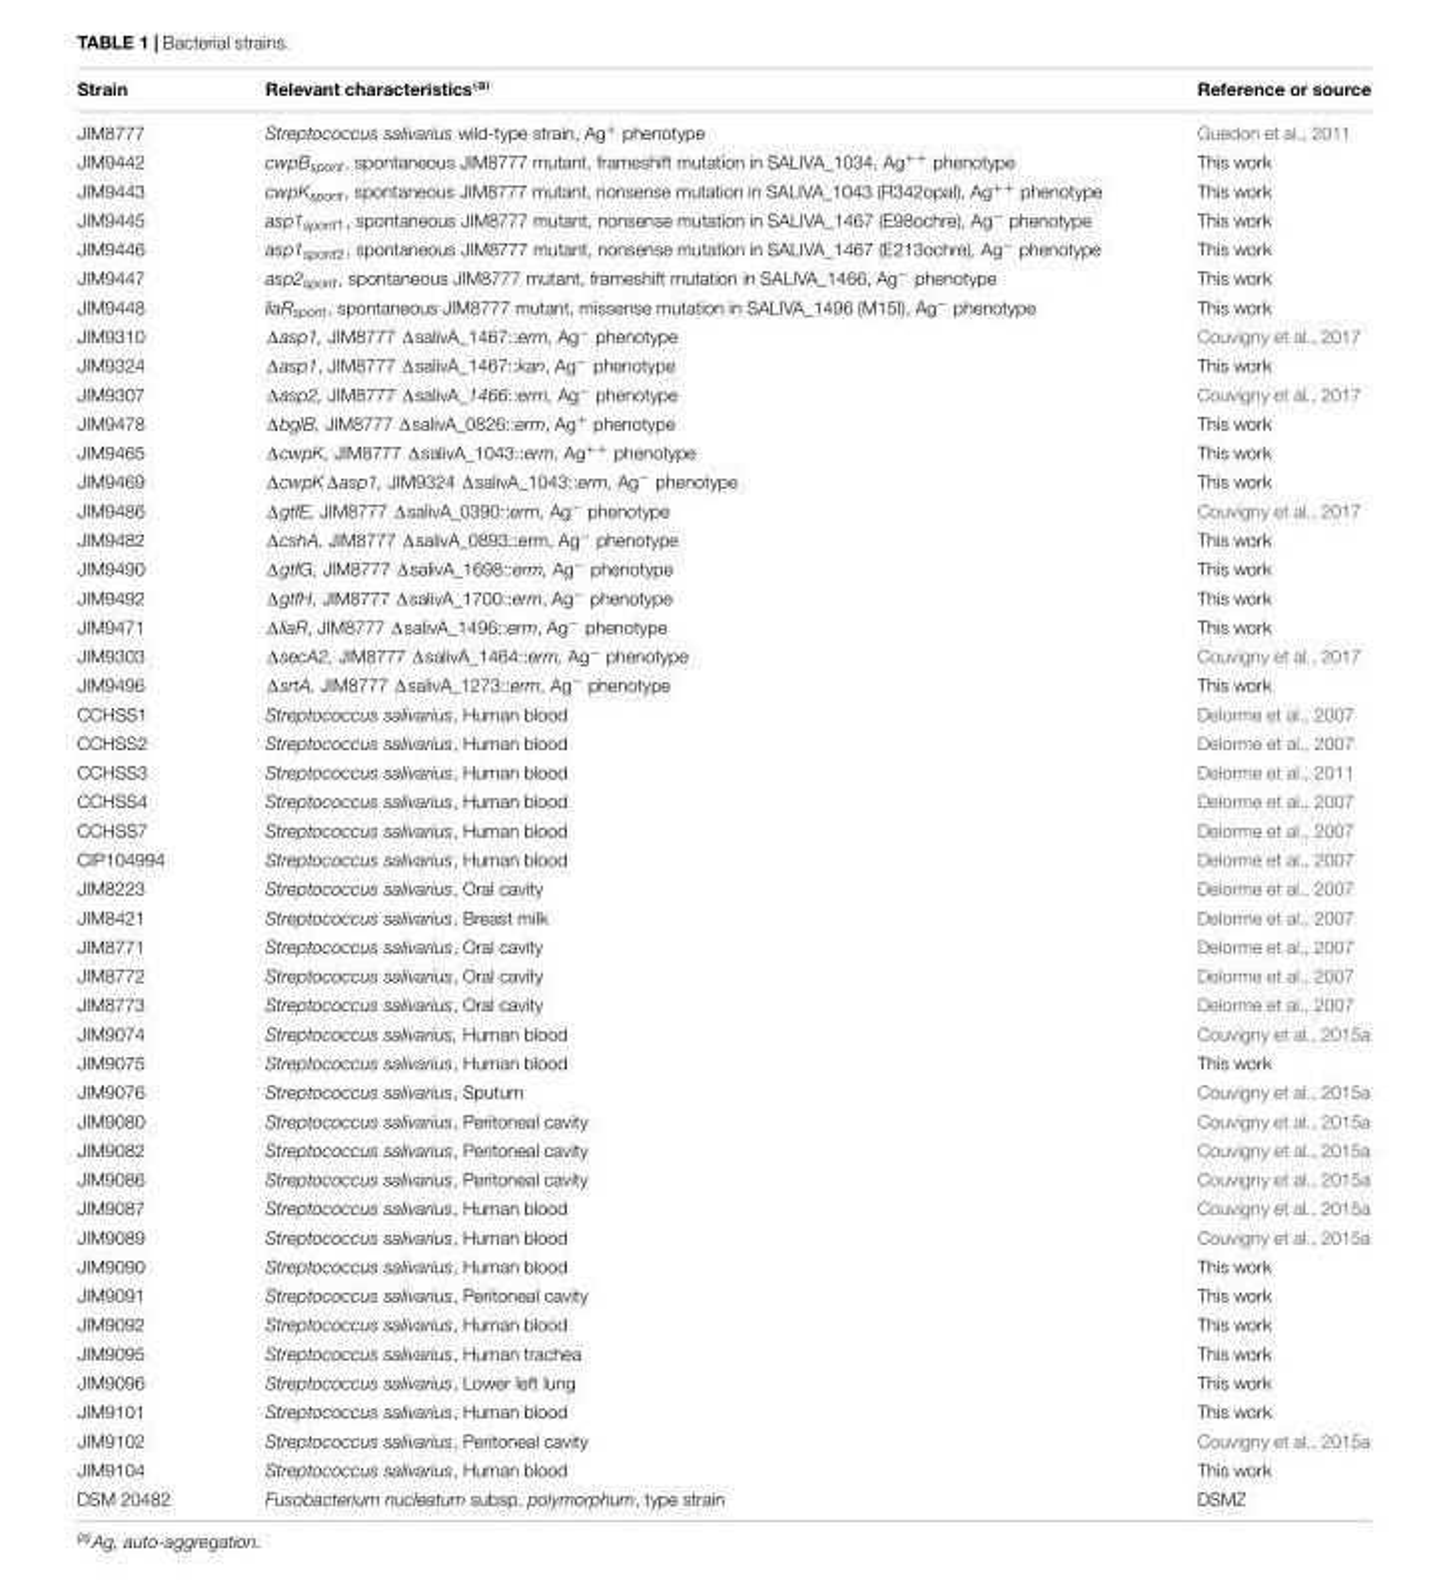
<table><thead><tr><td>Strain</td><td>Relevant characteristics<sup>(a)</sup></td><td>Reference or source</td></tr></thead><tbody><tr><td>JIM8777</td><td>Streptococcus salivarius wild-type strain, Ag<sup>+</sup> phenotype</td><td>Guedon et al., 2011</td></tr><tr><td>JIM9442</td><td>cwpB<sub>spont</sub>, spontaneous JIM8777 mutant, frameshift mutation in SALIVA_1034, Ag<sup>++</sup> phenotype</td><td>This work</td></tr><tr><td>JIM9443</td><td>cwpK<sub>spont</sub>, spontaneous JIM8777 mutant, nonsense mutation in SALIVA_1043 (R342opal), Ag<sup>++</sup> phenotype</td><td>This work</td></tr><tr><td>JIM9445</td><td>asp1<sub>spont1</sub>, spontaneous JIM8777 mutant, nonsense mutation in SALIVA_1467 (E98ochre), Ag<sup>−</sup> phenotype</td><td>This work</td></tr><tr><td>JIM9446</td><td>asp1<sub>spont2</sub>, spontaneous JIM8777 mutant, nonsense mutation in SALIVA_1467 (E213ochre), Ag<sup>−</sup> phenotype</td><td>This work</td></tr><tr><td>JIM9447</td><td>asp2<sub>spont</sub>, spontaneous JIM8777 mutant, frameshift mutation in SALIVA_1466, Ag<sup>−</sup> phenotype</td><td>This work</td></tr><tr><td>JIM9448</td><td>liaR<sub>spont</sub>, spontaneous JIM8777 mutant, missense mutation in SALIVA_1496 (M15I), Ag<sup>−</sup> phenotype</td><td>This work</td></tr><tr><td>JIM9310</td><td>Δasp1, JIM8777 ΔsalivA_1467::erm, Ag<sup>−</sup> phenotype</td><td>Couvigny et al., 2017</td></tr><tr><td>JIM9324</td><td>Δasp1, JIM8777 ΔsalivA_1467::kan, Ag<sup>−</sup> phenotype</td><td>This work</td></tr><tr><td>JIM9307</td><td>Δasp2, JIM8777 ΔsalivA_1466::erm, Ag<sup>−</sup> phenotype</td><td>Couvigny et al., 2017</td></tr><tr><td>JIM9478</td><td>ΔbglB, JIM8777 ΔsalivA_0826::erm, Ag<sup>+</sup> phenotype</td><td>This work</td></tr><tr><td>JIM9465</td><td>ΔcwpK, JIM8777 ΔsalivA_1043::erm, Ag<sup>++</sup> phenotype</td><td>This work</td></tr><tr><td>JIM9469</td><td>ΔcwpKΔasp1, JIM9324 ΔsalivA_1043::erm, Ag<sup>−</sup> phenotype</td><td>This work</td></tr><tr><td>JIM9486</td><td>ΔgtfE, JIM8777 ΔsalivA_0390::erm, Ag<sup>−</sup> phenotype</td><td>Couvigny et al., 2017</td></tr><tr><td>JIM9482</td><td>ΔcshA, JIM8777 ΔsalivA_0893::erm, Ag<sup>−</sup> phenotype</td><td>This work</td></tr><tr><td>JIM9490</td><td>ΔgtfG, JIM8777 ΔsalivA_1698::erm, Ag<sup>−</sup> phenotype</td><td>This work</td></tr><tr><td>JIM9492</td><td>ΔgtfH, JIM8777 ΔsalivA_1700::erm, Ag<sup>−</sup> phenotype</td><td>This work</td></tr><tr><td>JIM9471</td><td>ΔliaR, JIM8777 ΔsalivA_1496::erm, Ag<sup>−</sup> phenotype</td><td>This work</td></tr><tr><td>JIM9303</td><td>ΔsecA2, JIM8777 ΔsalivA_1464::erm, Ag<sup>−</sup> phenotype</td><td>Couvigny et al., 2017</td></tr><tr><td>JIM9496</td><td>ΔsrtA, JIM8777 ΔsalivA_1273::erm, Ag<sup>−</sup> phenotype</td><td>This work</td></tr><tr><td>CCHSS1</td><td>Streptococcus salivarius, Human blood</td><td>Delorme et al., 2007</td></tr><tr><td>CCHSS2</td><td>Streptococcus salivarius, Human blood</td><td>Delorme et al., 2007</td></tr><tr><td>CCHSS3</td><td>Streptococcus salivarius, Human blood</td><td>Delorme et al., 2011</td></tr><tr><td>CCHSS4</td><td>Streptococcus salivarius, Human blood</td><td>Delorme et al., 2007</td></tr><tr><td>CCHSS7</td><td>Streptococcus salivarius, Human blood</td><td>Delorme et al., 2007</td></tr><tr><td>CIP104994</td><td>Streptococcus salivarius, Human blood</td><td>Delorme et al., 2007</td></tr><tr><td>JIM8223</td><td>Streptococcus salivarius, Oral cavity</td><td>Delorme et al., 2007</td></tr><tr><td>JIM8421</td><td>Streptococcus salivarius, Breast milk</td><td>Delorme et al., 2007</td></tr><tr><td>JIM8771</td><td>Streptococcus salivarius, Oral cavity</td><td>Delorme et al., 2007</td></tr><tr><td>JIM8772</td><td>Streptococcus salivarius, Oral cavity</td><td>Delorme et al., 2007</td></tr><tr><td>JIM8773</td><td>Streptococcus salivarius, Oral cavity</td><td>Delorme et al., 2007</td></tr><tr><td>JIM9074</td><td>Streptococcus salivarius, Human blood</td><td>Couvigny et al., 2015a</td></tr><tr><td>JIM9075</td><td>Streptococcus salivarius, Human blood</td><td>This work</td></tr><tr><td>JIM9076</td><td>Streptococcus salivarius, Sputum</td><td>Couvigny et al., 2015a</td></tr><tr><td>JIM9080</td><td>Streptococcus salivarius, Peritoneal cavity</td><td>Couvigny et al., 2015a</td></tr><tr><td>JIM9082</td><td>Streptococcus salivarius, Peritoneal cavity</td><td>Couvigny et al., 2015a</td></tr><tr><td>JIM9086</td><td>Streptococcus salivarius, Peritoneal cavity</td><td>Couvigny et al., 2015a</td></tr><tr><td>JIM9087</td><td>Streptococcus salivarius, Human blood</td><td>Couvigny et al., 2015a</td></tr><tr><td>JIM9089</td><td>Streptococcus salivarius, Human blood</td><td>Couvigny et al., 2015a</td></tr><tr><td>JIM9090</td><td>Streptococcus salivarius, Human blood</td><td>This work</td></tr><tr><td>JIM9091</td><td>Streptococcus salivarius, Peritoneal cavity</td><td>This work</td></tr><tr><td>JIM9092</td><td>Streptococcus salivarius, Human blood</td><td>This work</td></tr><tr><td>JIM9095</td><td>Streptococcus salivarius, Human trachea</td><td>This work</td></tr><tr><td>JIM9096</td><td>Streptococcus salivarius, Lower left lung</td><td>This work</td></tr><tr><td>JIM9101</td><td>Streptococcus salivarius, Human blood</td><td>This work</td></tr><tr><td>JIM9102</td><td>Streptococcus salivarius, Peritoneal cavity</td><td>Couvigny et al., 2015a</td></tr><tr><td>JIM9104</td><td>Streptococcus salivarius, Human blood</td><td>This work</td></tr><tr><td>DSM 20482</td><td>Fusobacterium nucleatum subsp. polymorphum, type strain</td><td>DSMZ</td></tr></tbody></table>